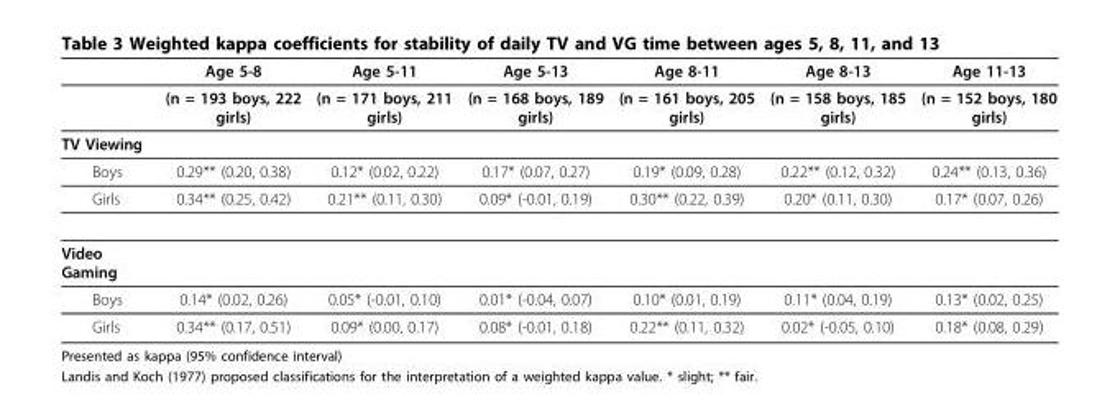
<table><thead><tr><td></td><td>Age 5-8</td><td>Age 5-11</td><td>Age 5-13</td><td>Age 8-11</td><td>Age 8-13</td><td>Age 11-13</td></tr></thead><tbody><tr><td></td><td>(n = 193 boys, 222 girls)</td><td>(n = 171 boys, 211 girls)</td><td>(n = 168 boys, 189 girls)</td><td>(n = 161 boys, 205 girls)</td><td>(n = 158 boys, 185 girls)</td><td>(n = 152 boys, 180 girls)</td></tr><tr><td colspan="7">TV Viewing</td></tr><tr><td>Boys</td><td>0.29** (0.20, 0.38)</td><td>0.12* (0.02, 0.22)</td><td>0.17* (0.07, 0.27)</td><td>0.19* (0.09, 0.28)</td><td>0.22** (0.12, 0.32)</td><td>0.24** (0.13, 0.36)</td></tr><tr><td>Girls</td><td>0.34** (0.25, 0.42)</td><td>0.21** (0.11, 0.30)</td><td>0.09* (-0.01, 0.19)</td><td>0.30** (0.22, 0.39)</td><td>0.20* (0.11, 0.30)</td><td>0.17* (0.07, 0.26)</td></tr><tr><td colspan="7">Video Gaming</td></tr><tr><td>Boys</td><td>0.14* (0.02, 0.26)</td><td>0.05* (-0.01, 0.10)</td><td>0.01* (-0.04, 0.07)</td><td>0.10* (0.01, 0.19)</td><td>0.11* (0.04, 0.19)</td><td>0.13* (0.02, 0.25)</td></tr><tr><td>Girls</td><td>0.34** (0.17, 0.51)</td><td>0.09* (0.00, 0.17)</td><td>0.08* (-0.01, 0.18)</td><td>0.22** (0.11, 0.32)</td><td>0.02* (-0.05, 0.10)</td><td>0.18* (0.08, 0.29)</td></tr></tbody></table>